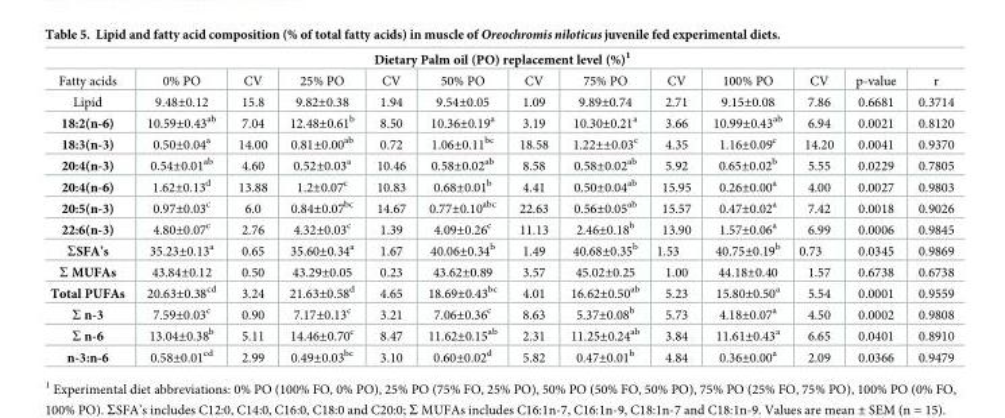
<table><thead><tr><td colspan="13">Dietary Palm oil (PO) replacement level (%)<sup>1</sup></td></tr><tr><td>Fatty acids</td><td>0% PO</td><td>CV</td><td>25% PO</td><td>CV</td><td>50% PO</td><td>CV</td><td>75% PO</td><td>CV</td><td>100% PO</td><td>CV</td><td>p-value</td><td>r</td></tr></thead><tbody><tr><td>Lipid</td><td>9.48±0.12</td><td>15.8</td><td>9.82±0.38</td><td>1.94</td><td>9.54±0.05</td><td>1.09</td><td>9.89±0.74</td><td>2.71</td><td>9.15±0.08</td><td>7.86</td><td>0.6681</td><td>0.3714</td></tr><tr><td>18:2(n-6)</td><td>10.59±0.43<sup>ab</sup></td><td>7.04</td><td>12.48±0.61<sup>b</sup></td><td>8.50</td><td>10.36±0.19<sup>a</sup></td><td>3.19</td><td>10.30±0.21<sup>a</sup></td><td>3.66</td><td>10.99±0.43<sup>ab</sup></td><td>6.94</td><td>0.0021</td><td>0.8120</td></tr><tr><td>18:3(n-3)</td><td>0.50±0.04<sup>a</sup></td><td>14.00</td><td>0.81±0.00<sup>ab</sup></td><td>0.72</td><td>1.06±0.11<sup>bc</sup></td><td>18.58</td><td>1.22±±0.03<sup>c</sup></td><td>4.35</td><td>1.16±0.09<sup>c</sup></td><td>14.20</td><td>0.0041</td><td>0.9370</td></tr><tr><td>20:4(n-3)</td><td>0.54±0.01<sup>ab</sup></td><td>4.60</td><td>0.52±0.03<sup>a</sup></td><td>10.46</td><td>0.58±0.02<sup>ab</sup></td><td>8.58</td><td>0.58±0.02<sup>ab</sup></td><td>5.92</td><td>0.65±0.02<sup>b</sup></td><td>5.55</td><td>0.0229</td><td>0.7805</td></tr><tr><td>20:4(n-6)</td><td>1.62±0.13<sup>d</sup></td><td>13.88</td><td>1.2±0.07<sup>c</sup></td><td>10.83</td><td>0.68±0.01<sup>b</sup></td><td>4.41</td><td>0.50±0.04<sup>ab</sup></td><td>15.95</td><td>0.26±0.00<sup>a</sup></td><td>4.00</td><td>0.0027</td><td>0.9803</td></tr><tr><td>20:5(n-3)</td><td>0.97±0.03<sup>c</sup></td><td>6.0</td><td>0.84±0.07<sup>bc</sup></td><td>14.67</td><td>0.77±0.10<sup>abc</sup></td><td>22.63</td><td>0.56±0.05<sup>ab</sup></td><td>15.57</td><td>0.47±0.02<sup>a</sup></td><td>7.42</td><td>0.0018</td><td>0.9026</td></tr><tr><td>22:6(n-3)</td><td>4.80±0.07<sup>c</sup></td><td>2.76</td><td>4.32±0.03<sup>c</sup></td><td>1.39</td><td>4.09±0.26<sup>c</sup></td><td>11.13</td><td>2.46±0.18<sup>b</sup></td><td>13.90</td><td>1.57±0.06<sup>a</sup></td><td>6.99</td><td>0.0006</td><td>0.9845</td></tr><tr><td>ΣSFA’s</td><td>35.23±0.13<sup>a</sup></td><td>0.65</td><td>35.60±0.34<sup>a</sup></td><td>1.67</td><td>40.06±0.34<sup>b</sup></td><td>1.49</td><td>40.68±0.35<sup>b</sup></td><td>1.53</td><td>40.75±0.19<sup>b</sup></td><td>0.73</td><td>0.0345</td><td>0.9869</td></tr><tr><td>Σ MUFAs</td><td>43.84±0.12</td><td>0.50</td><td>43.29±0.05</td><td>0.23</td><td>43.62±0.89</td><td>3.57</td><td>45.02±0.25</td><td>1.00</td><td>44.18±0.40</td><td>1.57</td><td>0.6738</td><td>0.6738</td></tr><tr><td>Total PUFAs</td><td>20.63±0.38<sup>cd</sup></td><td>3.24</td><td>21.63±0.58<sup>d</sup></td><td>4.65</td><td>18.69±0.43<sup>bc</sup></td><td>4.01</td><td>16.62±0.50<sup>ab</sup></td><td>5.23</td><td>15.80±0.50<sup>a</sup></td><td>5.54</td><td>0.0001</td><td>0.9559</td></tr><tr><td>Σ n-3</td><td>7.59±0.03<sup>c</sup></td><td>0.90</td><td>7.17±0.13<sup>c</sup></td><td>3.21</td><td>7.06±0.36<sup>c</sup></td><td>8.63</td><td>5.37±0.08<sup>b</sup></td><td>5.73</td><td>4.18±0.07<sup>a</sup></td><td>4.50</td><td>0.0002</td><td>0.9808</td></tr><tr><td>Σ n-6</td><td>13.04±0.38<sup>b</sup></td><td>5.11</td><td>14.46±0.70<sup>c</sup></td><td>8.47</td><td>11.62±0.15<sup>ab</sup></td><td>2.31</td><td>11.25±0.24<sup>ab</sup></td><td>3.84</td><td>11.61±0.43<sup>a</sup></td><td>6.65</td><td>0.0401</td><td>0.8910</td></tr><tr><td>n-3:n-6</td><td>0.58±0.01<sup>cd</sup></td><td>2.99</td><td>0.49±0.03<sup>bc</sup></td><td>3.10</td><td>0.60±0.02<sup>d</sup></td><td>5.82</td><td>0.47±0.01<sup>b</sup></td><td>4.84</td><td>0.36±0.00<sup>a</sup></td><td>2.09</td><td>0.0366</td><td>0.9479</td></tr></tbody></table>